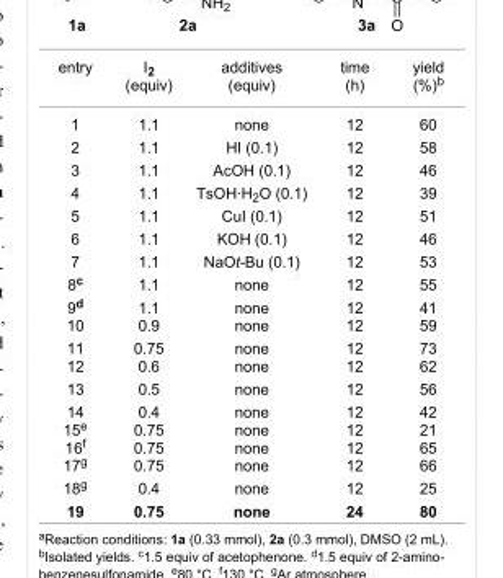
<table><tbody><tr><td>entry</td><td>I<sub>2</sub> (equiv)</td><td>additives (equiv)</td><td>time (h)</td><td>yield (%)<sup>b</sup></td></tr><tr><td>1</td><td>1.1</td><td>none</td><td>12</td><td>60</td></tr><tr><td>2</td><td>1.1</td><td>HI (0.1)</td><td>12</td><td>58</td></tr><tr><td>3</td><td>1.1</td><td>AcOH (0.1)</td><td>12</td><td>46</td></tr><tr><td>4</td><td>1.1</td><td>TsOH·H<sub>2</sub>O (0.1)</td><td>12</td><td>39</td></tr><tr><td>5</td><td>1.1</td><td>CuI (0.1)</td><td>12</td><td>51</td></tr><tr><td>6</td><td>1.1</td><td>KOH (0.1)</td><td>12</td><td>46</td></tr><tr><td>7</td><td>1.1</td><td>NaOt-Bu (0.1)</td><td>12</td><td>53</td></tr><tr><td>8<sup>c</sup></td><td>1.1</td><td>none</td><td>12</td><td>55</td></tr><tr><td>9<sup>d</sup> 10</td><td>1.1 0.9</td><td>none none</td><td>12 12</td><td>41 59</td></tr><tr><td>11 12</td><td>0.75 0.6</td><td>none none</td><td>12 12</td><td>73 62</td></tr><tr><td>13</td><td>0.5</td><td>none</td><td>12</td><td>56</td></tr><tr><td>14 15<sup>e</sup> 16<sup>f</sup> 17<sup>g</sup></td><td>0.4 0.75 0.75 0.75</td><td>none none none none</td><td>12 12 12 12</td><td>42 21 65 66</td></tr><tr><td>18<sup>g</sup></td><td>0.4</td><td>none</td><td>12</td><td>25</td></tr><tr><td>19</td><td>0.75</td><td>none</td><td>24</td><td>80</td></tr></tbody></table>